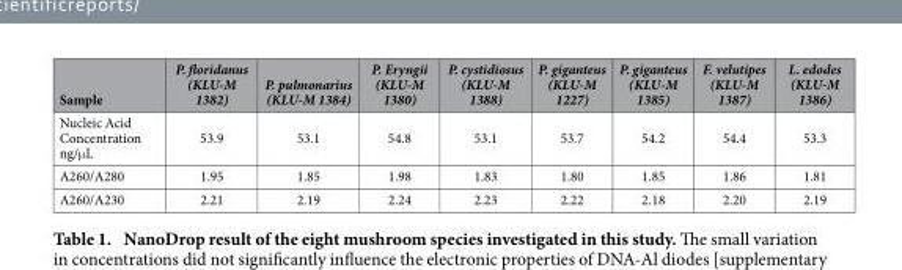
<table><thead><tr><td>Sample</td><td>P. floridanus (KLU-M 1382)</td><td>P. pulmonarius (KLU-M 1384)</td><td>P. Eryngii (KLU-M 1380)</td><td>P. cystidiosus (KLU-M 1388)</td><td>P. giganteus (KLU-M 1227)</td><td>P. giganteus (KLU-M 1385)</td><td>F. velutipes (KLU-M 1387)</td><td>L. edodes (KLU-M 1386)</td></tr></thead><tbody><tr><td>Nucleic Acid Concentration ng/μ L</td><td>53.9</td><td>53.1</td><td>54.8</td><td>53.1</td><td>53.7</td><td>54.2</td><td>54.4</td><td>53.3</td></tr><tr><td>A260/A280</td><td>1.95</td><td>1.85</td><td>1.98</td><td>1.83</td><td>1.80</td><td>1.85</td><td>1.86</td><td>1.81</td></tr><tr><td>A260/A230</td><td>2.21</td><td>2.19</td><td>2.24</td><td>2.23</td><td>2.22</td><td>2.18</td><td>2.20</td><td>2.19</td></tr></tbody></table>